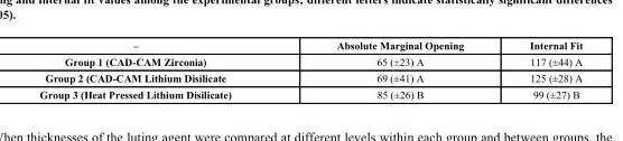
<table><thead><tr><td>–</td><td>Absolute Marginal Opening</td><td>Internal Fit</td></tr></thead><tbody><tr><td>Group 1 (CAD-CAM Zirconia)</td><td>65 (±23) A</td><td>117 (±44) A</td></tr><tr><td>Group 2 (CAD-CAM Lithium Disilicate</td><td>69 (±41) A</td><td>125 (±28) A</td></tr><tr><td>Group 3 (Heat Pressed Lithium Disilicate)</td><td>85 (±26) B</td><td>99 (±27) B</td></tr></tbody></table>